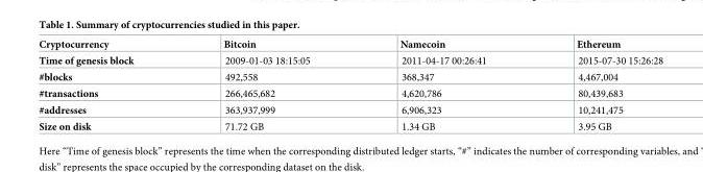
<table><thead><tr><td>Cryptocurrency</td><td>Bitcoin</td><td>Namecoin</td><td>Ethereum</td></tr></thead><tbody><tr><td>Time of genesis block</td><td>2009-01-03 18:15:05</td><td>2011-04-17 00:26:41</td><td>2015-07-30 15:26:28</td></tr><tr><td>#blocks</td><td>492,558</td><td>368,347</td><td>4,467,004</td></tr><tr><td>#transactions</td><td>266,465,682</td><td>4,620,786</td><td>80,439,683</td></tr><tr><td>#addresses</td><td>363,937,999</td><td>6,906,323</td><td>10,241,475</td></tr><tr><td>Size on disk</td><td>71.72 GB</td><td>1.34 GB</td><td>3.95 GB</td></tr></tbody></table>